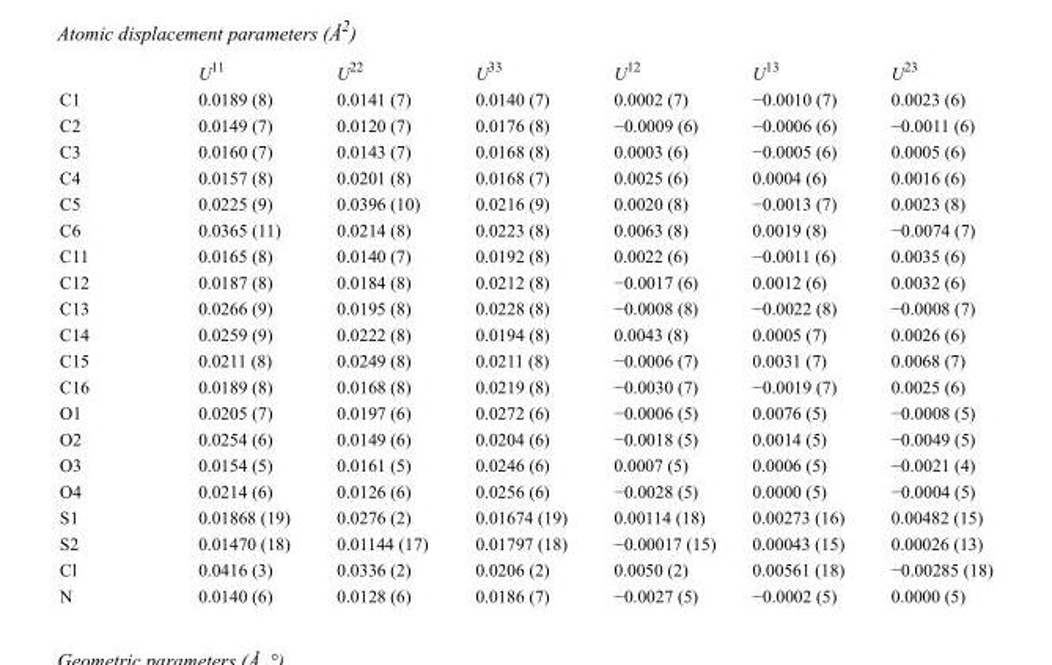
<table><thead><tr><td></td><td>U<sup>11</sup></td><td>U<sup>22</sup></td><td>U<sup>33</sup></td><td>U<sup>12</sup></td><td>U<sup>13</sup></td><td>U<sup>23</sup></td></tr></thead><tbody><tr><td>C1</td><td>0.0189 (8)</td><td>0.0141 (7)</td><td>0.0140 (7)</td><td>0.0002 (7)</td><td>−0.0010 (7)</td><td>0.0023 (6)</td></tr><tr><td>C2</td><td>0.0149 (7)</td><td>0.0120 (7)</td><td>0.0176 (8)</td><td>−0.0009 (6)</td><td>−0.0006 (6)</td><td>−0.0011 (6)</td></tr><tr><td>C3</td><td>0.0160 (7)</td><td>0.0143 (7)</td><td>0.0168 (8)</td><td>0.0003 (6)</td><td>−0.0005 (6)</td><td>0.0005 (6)</td></tr><tr><td>C4</td><td>0.0157 (8)</td><td>0.0201 (8)</td><td>0.0168 (7)</td><td>0.0025 (6)</td><td>0.0004 (6)</td><td>0.0016 (6)</td></tr><tr><td>C5</td><td>0.0225 (9)</td><td>0.0396 (10)</td><td>0.0216 (9)</td><td>0.0020 (8)</td><td>−0.0013 (7)</td><td>0.0023 (8)</td></tr><tr><td>C6</td><td>0.0365 (11)</td><td>0.0214 (8)</td><td>0.0223 (8)</td><td>0.0063 (8)</td><td>0.0019 (8)</td><td>−0.0074 (7)</td></tr><tr><td>C11</td><td>0.0165 (8)</td><td>0.0140 (7)</td><td>0.0192 (8)</td><td>0.0022 (6)</td><td>−0.0011 (6)</td><td>0.0035 (6)</td></tr><tr><td>C12</td><td>0.0187 (8)</td><td>0.0184 (8)</td><td>0.0212 (8)</td><td>−0.0017 (6)</td><td>0.0012 (6)</td><td>0.0032 (6)</td></tr><tr><td>C13</td><td>0.0266 (9)</td><td>0.0195 (8)</td><td>0.0228 (8)</td><td>−0.0008 (8)</td><td>−0.0022 (8)</td><td>−0.0008 (7)</td></tr><tr><td>C14</td><td>0.0259 (9)</td><td>0.0222 (8)</td><td>0.0194 (8)</td><td>0.0043 (8)</td><td>0.0005 (7)</td><td>0.0026 (6)</td></tr><tr><td>C15</td><td>0.0211 (8)</td><td>0.0249 (8)</td><td>0.0211 (8)</td><td>−0.0006 (7)</td><td>0.0031 (7)</td><td>0.0068 (7)</td></tr><tr><td>C16</td><td>0.0189 (8)</td><td>0.0168 (8)</td><td>0.0219 (8)</td><td>−0.0030 (7)</td><td>−0.0019 (7)</td><td>0.0025 (6)</td></tr><tr><td>O1</td><td>0.0205 (7)</td><td>0.0197 (6)</td><td>0.0272 (6)</td><td>−0.0006 (5)</td><td>0.0076 (5)</td><td>−0.0008 (5)</td></tr><tr><td>O2</td><td>0.0254 (6)</td><td>0.0149 (6)</td><td>0.0204 (6)</td><td>−0.0018 (5)</td><td>0.0014 (5)</td><td>−0.0049 (5)</td></tr><tr><td>O3</td><td>0.0154 (5)</td><td>0.0161 (5)</td><td>0.0246 (6)</td><td>0.0007 (5)</td><td>0.0006 (5)</td><td>−0.0021 (4)</td></tr><tr><td>O4</td><td>0.0214 (6)</td><td>0.0126 (6)</td><td>0.0256 (6)</td><td>−0.0028 (5)</td><td>0.0000 (5)</td><td>−0.0004 (5)</td></tr><tr><td>S1</td><td>0.01868 (19)</td><td>0.0276 (2)</td><td>0.01674 (19)</td><td>0.00114 (18)</td><td>0.00273 (16)</td><td>0.00482 (15)</td></tr><tr><td>S2</td><td>0.01470 (18)</td><td>0.01144 (17)</td><td>0.01797 (18)</td><td>−0.00017 (15)</td><td>0.00043 (15)</td><td>0.00026 (13)</td></tr><tr><td>Cl</td><td>0.0416 (3)</td><td>0.0336 (2)</td><td>0.0206 (2)</td><td>0.0050 (2)</td><td>0.00561 (18)</td><td>−0.00285 (18)</td></tr><tr><td>N</td><td>0.0140 (6)</td><td>0.0128 (6)</td><td>0.0186 (7)</td><td>−0.0027 (5)</td><td>−0.0002 (5)</td><td>0.0000 (5)</td></tr></tbody></table>